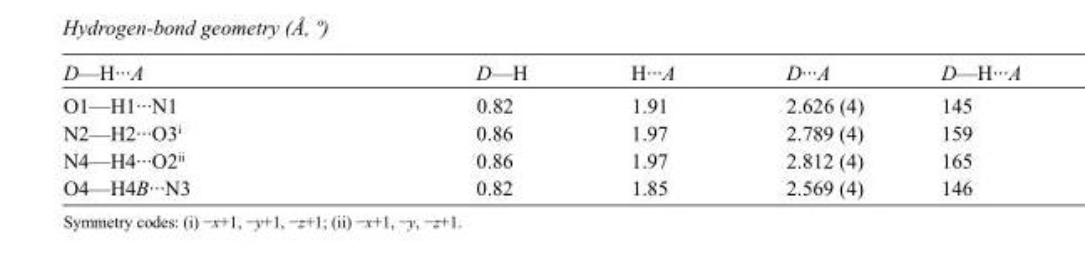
<table><tbody><tr><td>D—H···A</td><td>D—H</td><td>H···A</td><td>D···A</td><td>D—H···A</td></tr><tr><td>O1—H1···N1</td><td>0.82</td><td>1.91</td><td>2.626 (4)</td><td>145</td></tr><tr><td>N2—H2···O3<sup>i</sup></td><td>0.86</td><td>1.97</td><td>2.789 (4)</td><td>159</td></tr><tr><td>N4—H4···O2<sup>ii</sup></td><td>0.86</td><td>1.97</td><td>2.812 (4)</td><td>165</td></tr><tr><td>O4—H4B···N3</td><td>0.82</td><td>1.85</td><td>2.569 (4)</td><td>146</td></tr></tbody></table>